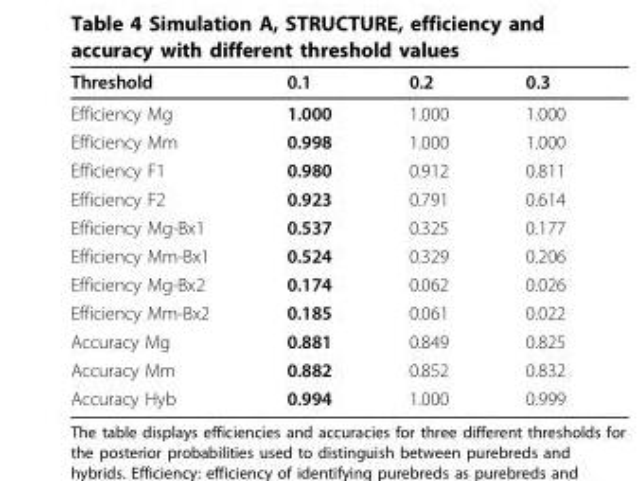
<table><thead><tr><td>Threshold</td><td>0.1</td><td>0.2</td><td>0.3</td></tr></thead><tbody><tr><td>Efficiency Mg</td><td>1.000</td><td>1.000</td><td>1.000</td></tr><tr><td>Efficiency Mm</td><td>0.998</td><td>1.000</td><td>1.000</td></tr><tr><td>Efficiency F1</td><td>0.980</td><td>0.912</td><td>0.811</td></tr><tr><td>Efficiency F2</td><td>0.923</td><td>0.791</td><td>0.614</td></tr><tr><td>Efficiency Mg-Bx1</td><td>0.537</td><td>0.325</td><td>0.177</td></tr><tr><td>Efficiency Mm-Bx1</td><td>0.524</td><td>0.329</td><td>0.206</td></tr><tr><td>Efficiency Mg-Bx2</td><td>0.174</td><td>0.062</td><td>0.026</td></tr><tr><td>Efficiency Mm-Bx2</td><td>0.185</td><td>0.061</td><td>0.022</td></tr><tr><td>Accuracy Mg</td><td>0.881</td><td>0.849</td><td>0.825</td></tr><tr><td>Accuracy Mm</td><td>0.882</td><td>0.852</td><td>0.832</td></tr><tr><td>Accuracy Hyb</td><td>0.994</td><td>1.000</td><td>0.999</td></tr></tbody></table>